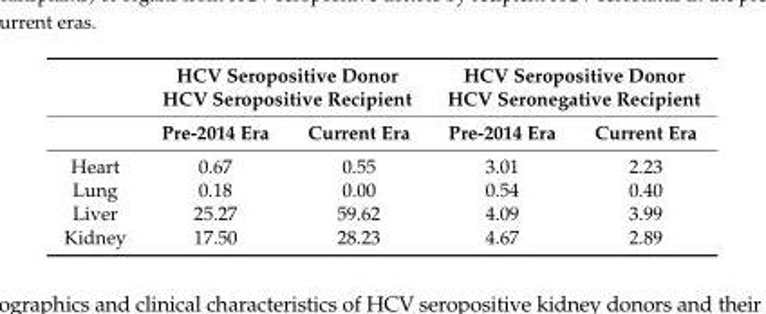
<table><thead><tr><td rowspan="2"></td><td colspan="2">HCV Seropositive Donor HCV Seropositive Recipient</td><td colspan="2">HCV Seropositive Donor HCV Seronegative Recipient</td></tr><tr><td>Pre-2014 Era</td><td>Current Era</td><td>Pre-2014 Era</td><td>Current Era</td></tr></thead><tbody><tr><td>Heart</td><td>0.67</td><td>0.55</td><td>3.01</td><td>2.23</td></tr><tr><td>Lung</td><td>0.18</td><td>0.00</td><td>0.54</td><td>0.40</td></tr><tr><td>Liver</td><td>25.27</td><td>59.62</td><td>4.09</td><td>3.99</td></tr><tr><td>Kidney</td><td>17.50</td><td>28.23</td><td>4.67</td><td>2.89</td></tr></tbody></table>